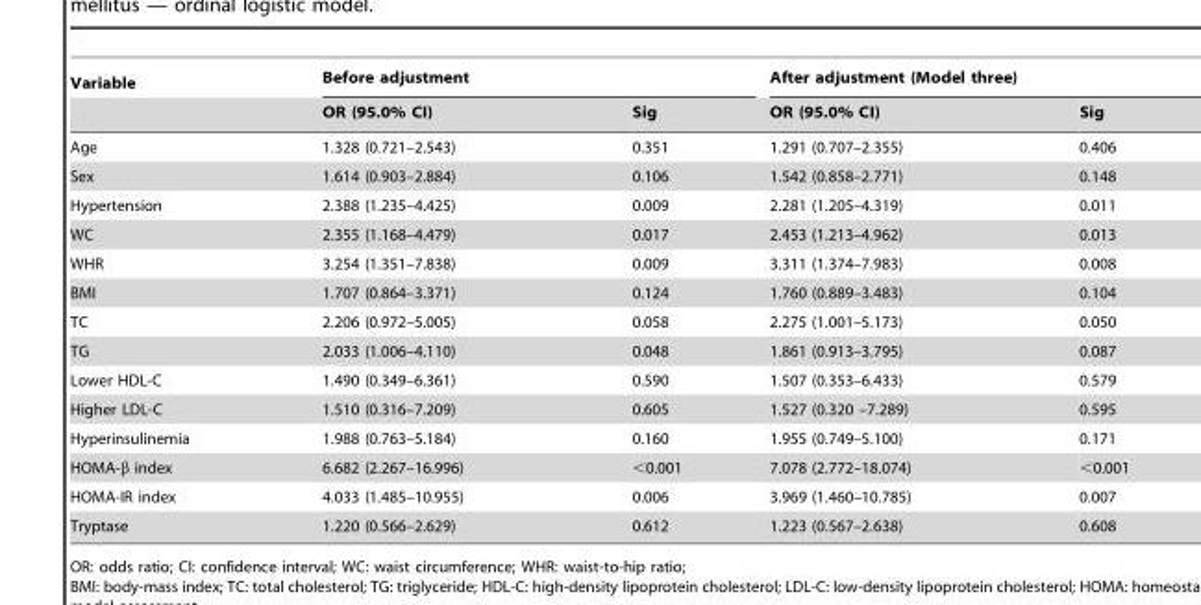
<table><thead><tr><td rowspan="2">Variable</td><td colspan="2">Before adjustment</td><td colspan="2">After adjustment (Model three)</td></tr><tr><td>OR (95.0% CI)</td><td>Sig</td><td>OR (95.0% CI)</td><td>Sig</td></tr></thead><tbody><tr><td>Age</td><td>1.328 (0.721–2.543)</td><td>0.351</td><td>1.291 (0.707–2.355)</td><td>0.406</td></tr><tr><td>Sex</td><td>1.614 (0.903–2.884)</td><td>0.106</td><td>1.542 (0.858–2.771)</td><td>0.148</td></tr><tr><td>Hypertension</td><td>2.388 (1.235–4.425)</td><td>0.009</td><td>2.281 (1.205–4.319)</td><td>0.011</td></tr><tr><td>WC</td><td>2.355 (1.168–4.479)</td><td>0.017</td><td>2.453 (1.213–4.962)</td><td>0.013</td></tr><tr><td>WHR</td><td>3.254 (1.351–7.838)</td><td>0.009</td><td>3.311 (1.374–7.983)</td><td>0.008</td></tr><tr><td>BMI</td><td>1.707 (0.864–3.371)</td><td>0.124</td><td>1.760 (0.889–3.483)</td><td>0.104</td></tr><tr><td>TC</td><td>2.206 (0.972–5.005)</td><td>0.058</td><td>2.275 (1.001–5.173)</td><td>0.050</td></tr><tr><td>TG</td><td>2.033 (1.006–4.110)</td><td>0.048</td><td>1.861 (0.913–3.795)</td><td>0.087</td></tr><tr><td>Lower HDL-C</td><td>1.490 (0.349–6.361)</td><td>0.590</td><td>1.507 (0.353–6.433)</td><td>0.579</td></tr><tr><td>Higher LDL-C</td><td>1.510 (0.316–7.209)</td><td>0.605</td><td>1.527 (0.320 –7.289)</td><td>0.595</td></tr><tr><td>Hyperinsulinemia</td><td>1.988 (0.763–5.184)</td><td>0.160</td><td>1.955 (0.749–5.100)</td><td>0.171</td></tr><tr><td>HOMA-β index</td><td>6.682 (2.267–16.996)</td><td>&lt;0.001</td><td>7.078 (2.772–18.074)</td><td>&lt;0.001</td></tr><tr><td>HOMA-IR index</td><td>4.033 (1.485–10.955)</td><td>0.006</td><td>3.969 (1.460–10.785)</td><td>0.007</td></tr><tr><td>Tryptase</td><td>1.220 (0.566–2.629)</td><td>0.612</td><td>1.223 (0.567–2.638)</td><td>0.608</td></tr></tbody></table>